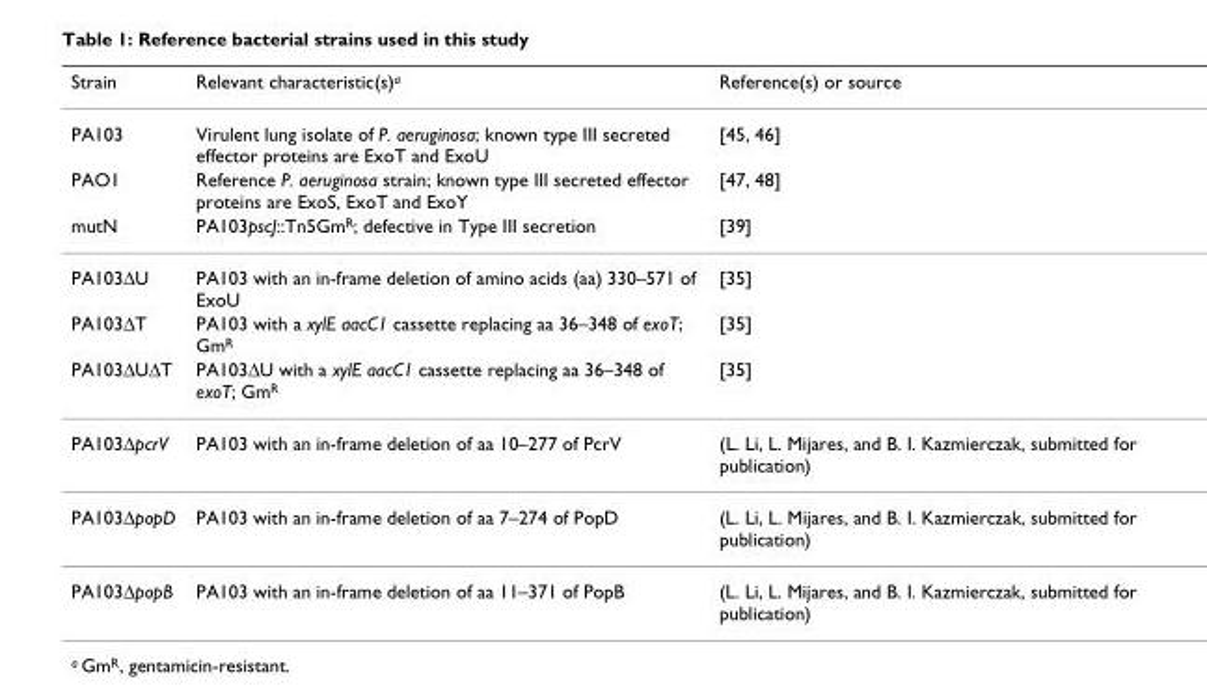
<table><thead><tr><td>Strain</td><td>Relevant characteristic(s)a</td><td>Reference(s) or source</td></tr></thead><tbody><tr><td>PA103</td><td>Virulent lung isolate of P. aeruginosa; known type III secreted effector proteins are ExoT and ExoU</td><td>[45, 46]</td></tr><tr><td>PAO1</td><td>Reference P. aeruginosa strain; known type III secreted effector proteins are ExoS, ExoT and ExoY</td><td>[47, 48]</td></tr><tr><td>mutN</td><td>PA103pscJ::Tn5GmR; defective in Type III secretion</td><td>[39]</td></tr><tr><td>PA103∆U</td><td>PA103 with an in-frame deletion of amino acids (aa) 330–571 of ExoU</td><td>[35]</td></tr><tr><td>PA103∆T</td><td>PA103 with a xylE aacC1 cassette replacing aa 36–348 of exoT; GmR</td><td>[35]</td></tr><tr><td>PA103∆U∆T</td><td>PA103∆U with a xylE aacC1 cassette replacing aa 36–348 of exoT; GmR</td><td>[35]</td></tr><tr><td>PA103∆pcrV</td><td>PA103 with an in-frame deletion of aa 10–277 of PcrV</td><td>(L. Li, L. Mijares, and B. I. Kazmierczak, submitted for publication)</td></tr><tr><td>PA103∆popD</td><td>PA103 with an in-frame deletion of aa 7–274 of PopD</td><td>(L. Li, L. Mijares, and B. I. Kazmierczak, submitted for publication)</td></tr><tr><td>PA103∆popB</td><td>PA103 with an in-frame deletion of aa 11–371 of PopB</td><td>(L. Li, L. Mijares, and B. I. Kazmierczak, submitted for publication)</td></tr></tbody></table>